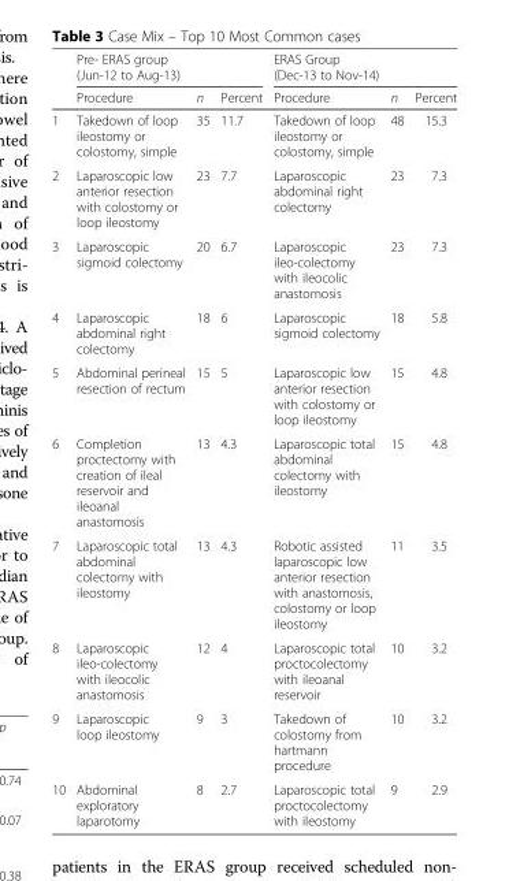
<table><thead><tr><td rowspan="2"></td><td colspan="3">Pre- ERAS group (Jun-12 to Aug-13)</td><td colspan="3">ERAS Group (Dec-13 to Nov-14)</td></tr><tr><td>Procedure</td><td>n</td><td>Percent</td><td>Procedure</td><td>n</td><td>Percent</td></tr></thead><tbody><tr><td>1</td><td>Takedown of loop ileostomy or colostomy, simple</td><td>35</td><td>11.7</td><td>Takedown of loop ileostomy or colostomy, simple</td><td>48</td><td>15.3</td></tr><tr><td>2</td><td>Laparoscopic low anterior resection with colostomy or loop ileostomy</td><td>23</td><td>7.7</td><td>Laparoscopic abdominal right colectomy</td><td>23</td><td>7.3</td></tr><tr><td>3</td><td>Laparoscopic sigmoid colectomy</td><td>20</td><td>6.7</td><td>Laparoscopic ileo-colectomy with ileocolic anastomosis</td><td>23</td><td>7.3</td></tr><tr><td>4</td><td>Laparoscopic abdominal right colectomy</td><td>18</td><td>6</td><td>Laparoscopic sigmoid colectomy</td><td>18</td><td>5.8</td></tr><tr><td>5</td><td>Abdominal perineal resection of rectum</td><td>15</td><td>5</td><td>Laparoscopic low anterior resection with colostomy or loop ileostomy</td><td>15</td><td>4.8</td></tr><tr><td>6</td><td>Completion proctectomy with creation of ileal reservoir and ileoanal anastomosis</td><td>13</td><td>4.3</td><td>Laparoscopic total abdominal colectomy with ileostomy</td><td>15</td><td>4.8</td></tr><tr><td>7</td><td>Laparoscopic total abdominal colectomy with ileostomy</td><td>13</td><td>4.3</td><td>Robotic assisted laparoscopic low anterior resection with anastomosis, colostomy or loop ileostomy</td><td>11</td><td>3.5</td></tr><tr><td>8</td><td>Laparoscopic ileo-colectomy with ileocolic anastomosis</td><td>12</td><td>4</td><td>Laparoscopic total proctocolectomy with ileoanal reservoir</td><td>10</td><td>3.2</td></tr><tr><td>9</td><td>Laparoscopic loop ileostomy</td><td>9</td><td>3</td><td>Takedown of colostomy from hartmann procedure</td><td>10</td><td>3.2</td></tr><tr><td>10</td><td>Abdominal exploratory laparotomy</td><td>8</td><td>2.7</td><td>Laparoscopic total proctocolectomy with ileostomy</td><td>9</td><td>2.9</td></tr></tbody></table>